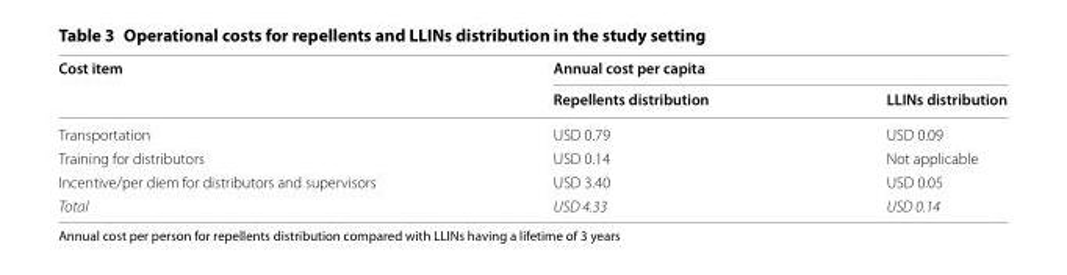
<table><thead><tr><td rowspan="2">Cost item</td><td colspan="2">Annual cost per capita</td></tr><tr><td>Repellents distribution</td><td>LLINs distribution</td></tr></thead><tbody><tr><td>Transportation</td><td>USD 0.79</td><td>USD 0.09</td></tr><tr><td>Training for distributors</td><td>USD 0.14</td><td>Not applicable</td></tr><tr><td>Incentive/per diem for distributors and supervisors</td><td>USD 3.40</td><td>USD 0.05</td></tr><tr><td>Total</td><td>USD 4.33</td><td>USD 0.14</td></tr></tbody></table>